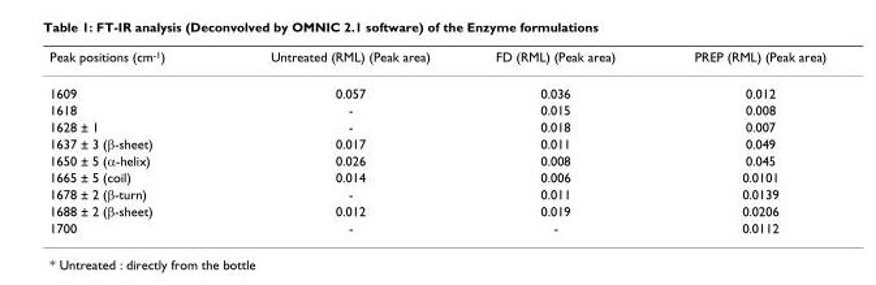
<table><thead><tr><td>Peak positions (cm<sup>-1</sup>)</td><td>Untreated (RML) (Peak area)</td><td>FD (RML) (Peak area)</td><td>PREP (RML) (Peak area)</td></tr></thead><tbody><tr><td>1609</td><td>0.057</td><td>0.036</td><td>0.012</td></tr><tr><td>1618</td><td>-</td><td>0.015</td><td>0.008</td></tr><tr><td>1628 ± 1</td><td>-</td><td>0.018</td><td>0.007</td></tr><tr><td>1637 ± 3 (β-sheet)</td><td>0.017</td><td>0.011</td><td>0.049</td></tr><tr><td>1650 ± 5 (α-helix)</td><td>0.026</td><td>0.008</td><td>0.045</td></tr><tr><td>1665 ± 5 (coil)</td><td>0.014</td><td>0.006</td><td>0.0101</td></tr><tr><td>1678 ± 2 (β-turn)</td><td>-</td><td>0.011</td><td>0.0139</td></tr><tr><td>1688 ± 2 (β-sheet)</td><td>0.012</td><td>0.019</td><td>0.0206</td></tr><tr><td>1700</td><td>-</td><td>-</td><td>0.0112</td></tr></tbody></table>